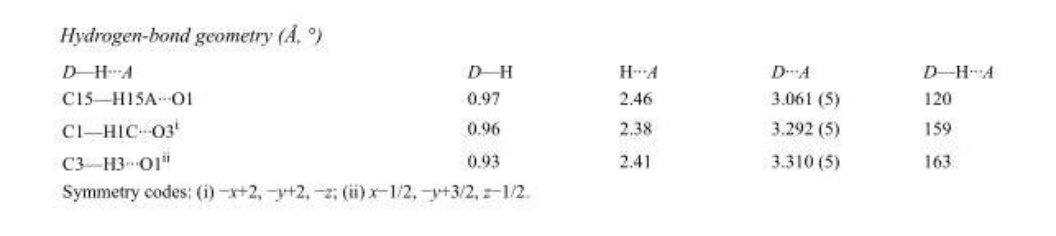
<table><tbody><tr><td>D—H···A</td><td>D—H</td><td>H···A</td><td>D···A</td><td>D—H···A</td></tr><tr><td>C15—H15A···O1</td><td>0.97</td><td>2.46</td><td>3.061 (5)</td><td>120</td></tr><tr><td>C1—H1C···O3<sup>i</sup></td><td>0.96</td><td>2.38</td><td>3.292 (5)</td><td>159</td></tr><tr><td>C3—H3···O1<sup>ii</sup></td><td>0.93</td><td>2.41</td><td>3.310 (5)</td><td>163</td></tr></tbody></table>